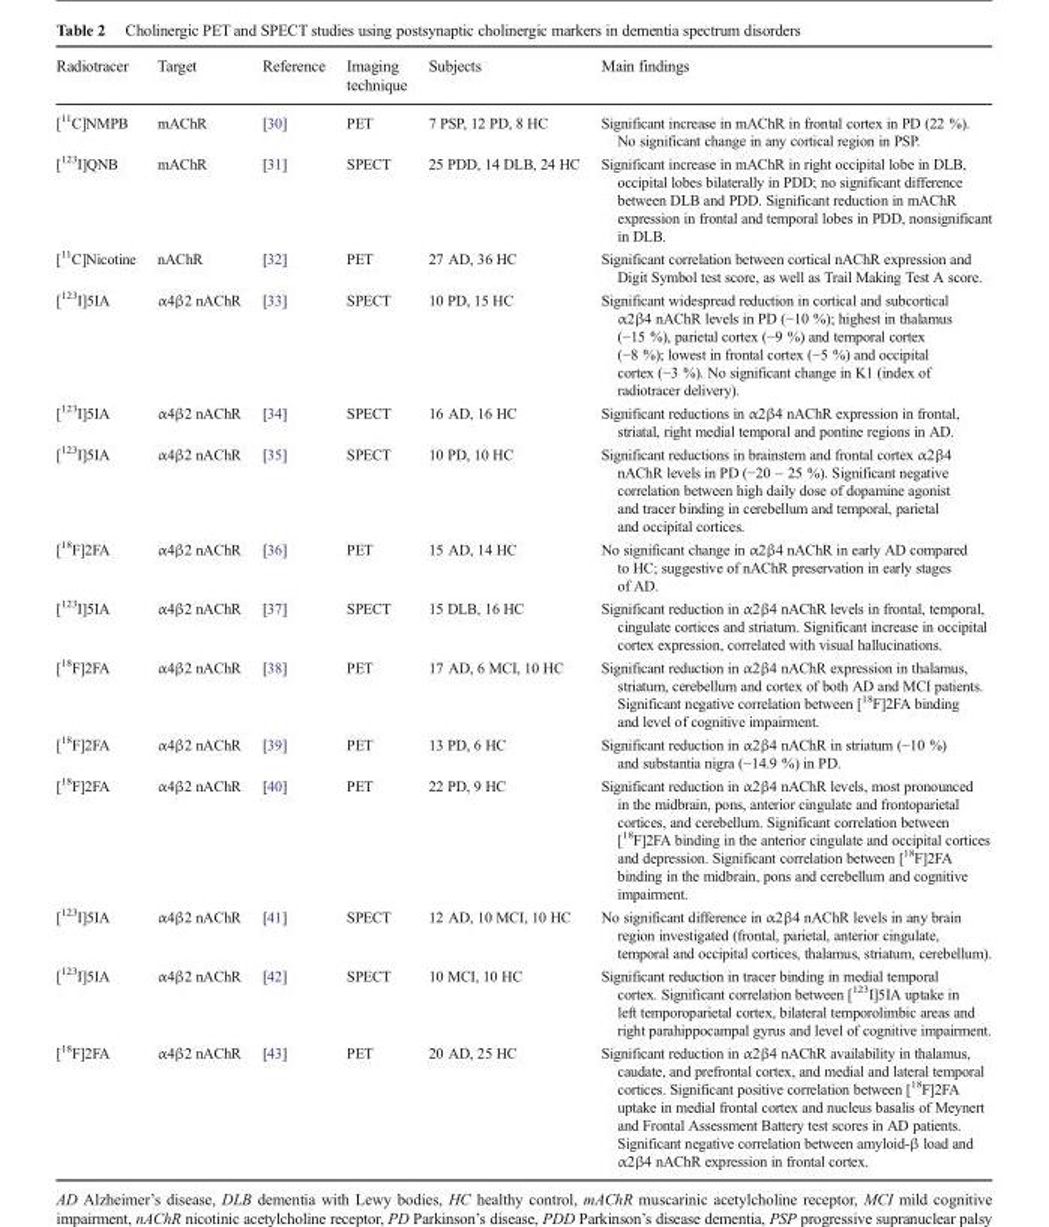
<table><thead><tr><td>Radiotracer</td><td>Target</td><td>Reference</td><td>Imaging technique</td><td>Subjects</td><td>Main findings</td></tr></thead><tbody><tr><td>[<sup>11</sup>C]NMPB</td><td>mAChR</td><td>[30]</td><td>PET</td><td>7 PSP, 12 PD, 8 HC</td><td>Significant increase in mAChR in frontal cortex in PD (22 %). No significant change in any cortical region in PSP.</td></tr><tr><td>[<sup>123</sup>I]QNB</td><td>mAChR</td><td>[31]</td><td>SPECT</td><td>25 PDD, 14 DLB, 24 HC</td><td>Significant increase in mAChR in right occipital lobe in DLB, occipital lobes bilaterally in PDD; no significant difference between DLB and PDD. Significant reduction in mAChR expression in frontal and temporal lobes in PDD, nonsignificant in DLB.</td></tr><tr><td>[<sup>11</sup>C]Nicotine</td><td>nAChR</td><td>[32]</td><td>PET</td><td>27 AD, 36 HC</td><td>Significant correlation between cortical nAChR expression and Digit Symbol test score, as well as Trail Making Test A score.</td></tr><tr><td>[<sup>123</sup>I]5IA</td><td>α4β2 nAChR</td><td>[33]</td><td>SPECT</td><td>10 PD, 15 HC</td><td>Significant widespread reduction in cortical and subcortical α2β4 nAChR levels in PD (−10 %); highest in thalamus (−15 %), parietal cortex (−9 %) and temporal cortex (−8 %); lowest in frontal cortex (−5 %) and occipital cortex (−3 %). No significant change in K1 (index of radiotracer delivery).</td></tr><tr><td>[<sup>123</sup>I]5IA</td><td>α4β2 nAChR</td><td>[34]</td><td>SPECT</td><td>16 AD, 16 HC</td><td>Significant reductions in α2β4 nAChR expression in frontal, striatal, right medial temporal and pontine regions in AD.</td></tr><tr><td>[<sup>123</sup>I]5IA</td><td>α4β2 nAChR</td><td>[35]</td><td>SPECT</td><td>10 PD, 10 HC</td><td>Significant reductions in brainstem and frontal cortex α2β4 nAChR levels in PD (−20 – 25 %). Significant negative correlation between high daily dose of dopamine agonist and tracer binding in cerebellum and temporal, parietal and occipital cortices.</td></tr><tr><td>[<sup>18</sup>F]2FA</td><td>α4β2 nAChR</td><td>[36]</td><td>PET</td><td>15 AD, 14 HC</td><td>No significant change in α2β4 nAChR in early AD compared to HC; suggestive of nAChR preservation in early stages of AD.</td></tr><tr><td>[<sup>123</sup>I]5IA</td><td>α4β2 nAChR</td><td>[37]</td><td>SPECT</td><td>15 DLB, 16 HC</td><td>Significant reduction in α2β4 nAChR levels in frontal, temporal, cingulate cortices and striatum. Significant increase in occipital cortex expression, correlated with visual hallucinations.</td></tr><tr><td>[<sup>18</sup>F]2FA</td><td>α4β2 nAChR</td><td>[38]</td><td>PET</td><td>17 AD, 6 MCI, 10 HC</td><td>Significant reduction in α2β4 nAChR expression in thalamus, striatum, cerebellum and cortex of both AD and MCI patients. Significant negative correlation between [<sup>18</sup>F]2FA binding and level of cognitive impairment.</td></tr><tr><td>[<sup>18</sup>F]2FA</td><td>α4β2 nAChR</td><td>[39]</td><td>PET</td><td>13 PD, 6 HC</td><td>Significant reduction in α2β4 nAChR in striatum (−10 %) and substantia nigra (−14.9 %) in PD.</td></tr><tr><td>[<sup>18</sup>F]2FA</td><td>α4β2 nAChR</td><td>[40]</td><td>PET</td><td>22 PD, 9 HC</td><td>Significant reduction in α2β4 nAChR levels, most pronounced in the midbrain, pons, anterior cingulate and frontoparietal cortices, and cerebellum. Significant correlation between [<sup>18</sup>F]2FA binding in the anterior cingulate and occipital cortices and depression. Significant correlation between [<sup>18</sup>F]2FA binding in the midbrain, pons and cerebellum and cognitive impairment.</td></tr><tr><td>[<sup>123</sup>I]5IA</td><td>α4β2 nAChR</td><td>[41]</td><td>SPECT</td><td>12 AD, 10 MCI, 10 HC</td><td>No significant difference in α2β4 nAChR levels in any brain region investigated (frontal, parietal, anterior cingulate, temporal and occipital cortices, thalamus, striatum, cerebellum).</td></tr><tr><td>[<sup>123</sup>I]5IA</td><td>α4β2 nAChR</td><td>[42]</td><td>SPECT</td><td>10 MCI, 10 HC</td><td>Significant reduction in tracer binding in medial temporal cortex. Significant correlation between [<sup>123</sup>I]5IA uptake in left temporoparietal cortex, bilateral temporolimbic areas and right parahippocampal gyrus and level of cognitive impairment.</td></tr><tr><td>[<sup>18</sup>F]2FA</td><td>α4β2 nAChR</td><td>[43]</td><td>PET</td><td>20 AD, 25 HC</td><td>Significant reduction in α2β4 nAChR availability in thalamus, caudate, and prefrontal cortex, and medial and lateral temporal cortices. Significant positive correlation between [<sup>18</sup>F]2FA uptake in medial frontal cortex and nucleus basalis of Meynert and Frontal Assessment Battery test scores in AD patients. Significant negative correlation between amyloid-β load and α2β4 nAChR expression in frontal cortex.</td></tr></tbody></table>